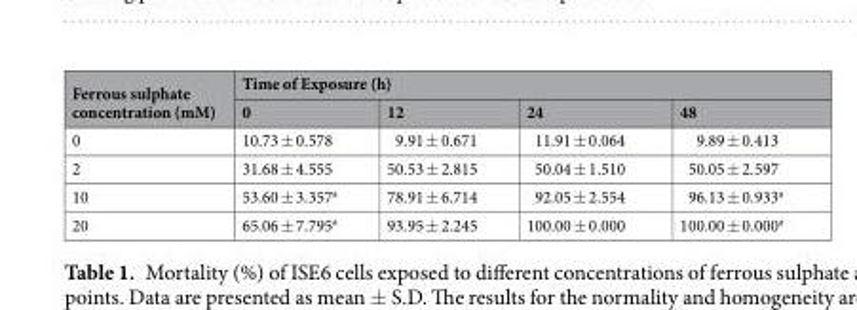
<table><thead><tr><td rowspan="2">Ferrous sulphate concentration (mM)</td><td colspan="4">Time of Exposure (h)</td></tr><tr><td>0</td><td>12</td><td>24</td><td>48</td></tr></thead><tbody><tr><td>0</td><td>10.73 ± 0.578</td><td>9.91 ± 0.671</td><td>11.91 ± 0.064</td><td>9.89 ± 0.413</td></tr><tr><td>2</td><td>31.68 ± 4.555</td><td>50.53 ± 2.815</td><td>50.04 ± 1.510</td><td>50.05 ± 2.597</td></tr><tr><td>10</td><td>53.60 ± 3.357<sup>a</sup></td><td>78.91 ± 6.714</td><td>92.05 ± 2.554</td><td>96.13 ± 0.933<sup>a</sup></td></tr><tr><td>20</td><td>65.06 ± 7.795<sup>a</sup></td><td>93.95 ± 2.245</td><td>100.00 ± 0.000</td><td>100.00 ± 0.000<sup>a</sup></td></tr></tbody></table>